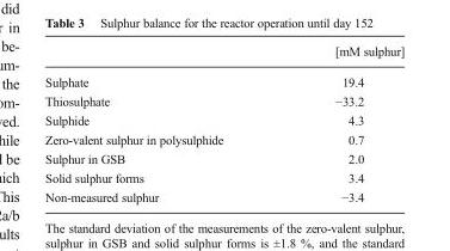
<table><thead><tr><td></td><td>[mM sulphur]</td></tr></thead><tbody><tr><td>Sulphate</td><td>19.4</td></tr><tr><td>Thiosulphate</td><td>−33.2</td></tr><tr><td>Sulphide</td><td>4.3</td></tr><tr><td>Zero-valent sulphur in polysulphide</td><td>0.7</td></tr><tr><td>Sulphur in GSB</td><td>2.0</td></tr><tr><td>Solid sulphur forms</td><td>3.4</td></tr><tr><td>Non-measured sulphur</td><td>−3.4</td></tr></tbody></table>